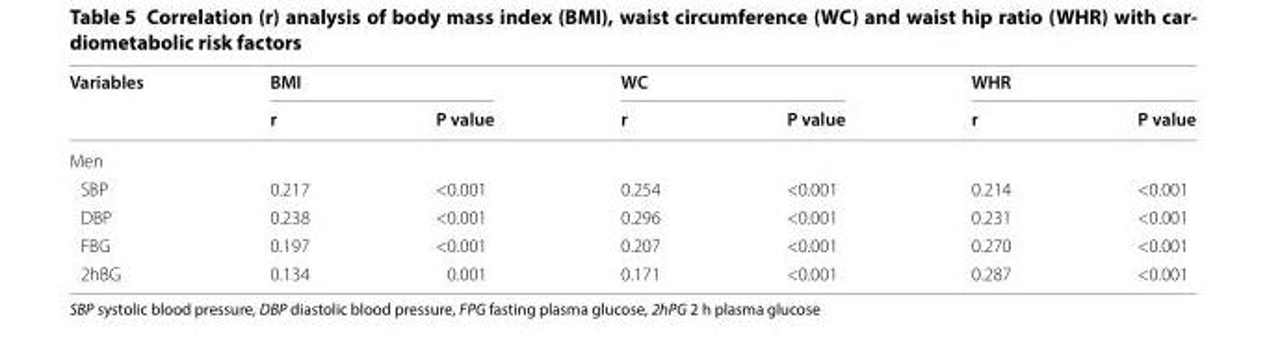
<table><thead><tr><td rowspan="2">Variables</td><td colspan="2">BMI</td><td colspan="2">WC</td><td colspan="2">WHR</td></tr><tr><td>r</td><td>P value</td><td>r</td><td>P value</td><td>r</td><td>P value</td></tr></thead><tbody><tr><td colspan="7">Men</td></tr><tr><td>SBP</td><td>0.217</td><td>&lt;0.001</td><td>0.254</td><td>&lt;0.001</td><td>0.214</td><td>&lt;0.001</td></tr><tr><td>DBP</td><td>0.238</td><td>&lt;0.001</td><td>0.296</td><td>&lt;0.001</td><td>0.231</td><td>&lt;0.001</td></tr><tr><td>FBG</td><td>0.197</td><td>&lt;0.001</td><td>0.207</td><td>&lt;0.001</td><td>0.270</td><td>&lt;0.001</td></tr><tr><td>2hBG</td><td>0.134</td><td>0.001</td><td>0.171</td><td>&lt;0.001</td><td>0.287</td><td>&lt;0.001</td></tr></tbody></table>